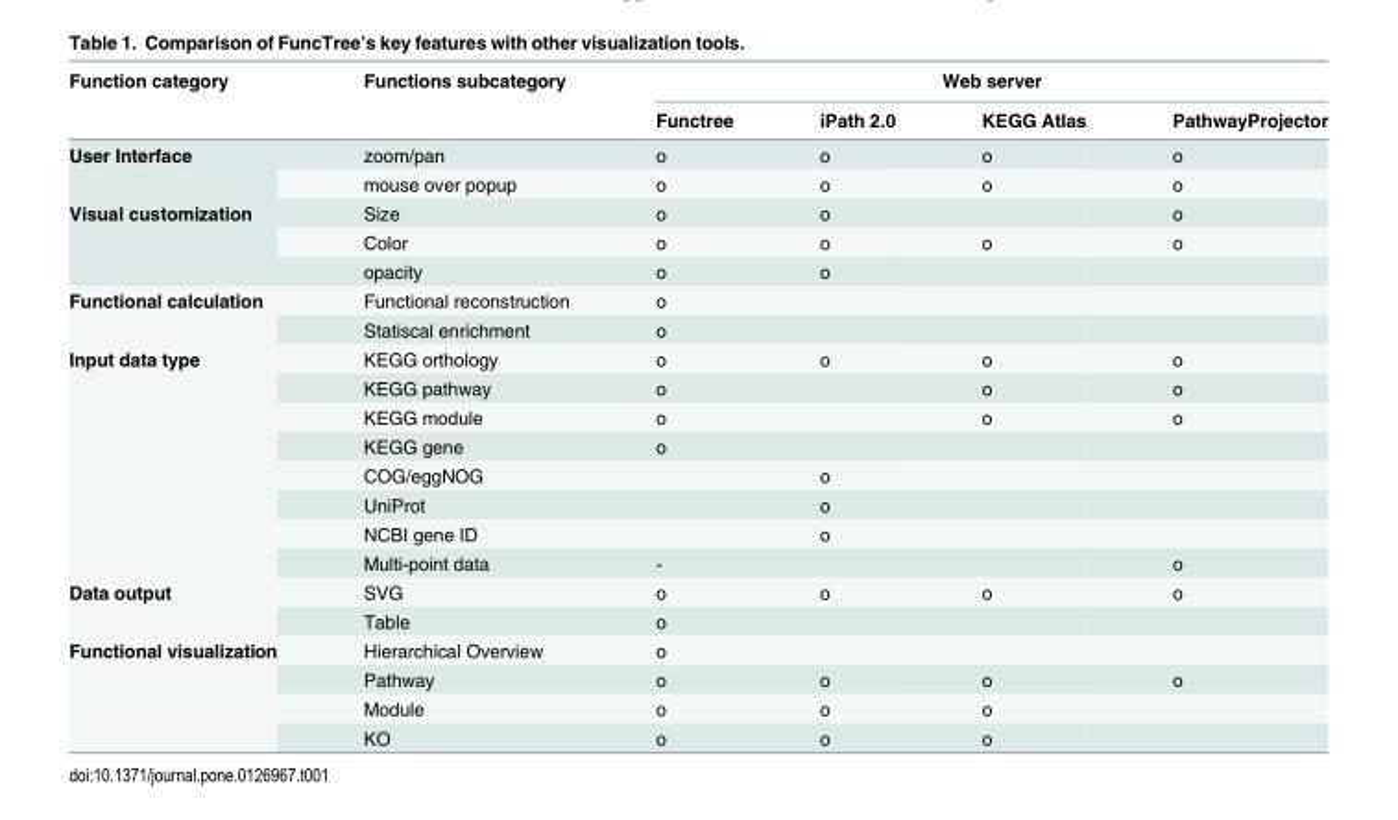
<table><thead><tr><td rowspan="2">Function category</td><td rowspan="2">Functions subcategory</td><td colspan="4">Web server</td></tr><tr><td>Functree</td><td>iPath 2.0</td><td>KEGG Atlas</td><td>PathwayProjector</td></tr></thead><tbody><tr><td rowspan="2">User Interface</td><td>zoom/pan</td><td>o</td><td>o</td><td>o</td><td>o</td></tr><tr><td>mouse over popup</td><td>o</td><td>o</td><td>o</td><td>o</td></tr><tr><td rowspan="3">Visual customization</td><td>Size</td><td>o</td><td>o</td><td></td><td>o</td></tr><tr><td>Color</td><td>o</td><td>o</td><td>o</td><td>o</td></tr><tr><td>opacity</td><td>o</td><td>o</td><td></td><td></td></tr><tr><td rowspan="2">Functional calculation</td><td>Functional reconstruction</td><td>o</td><td></td><td></td><td></td></tr><tr><td>Statiscal enrichment</td><td>o</td><td></td><td></td><td></td></tr><tr><td rowspan="8">Input data type</td><td>KEGG orthology</td><td>o</td><td>o</td><td>o</td><td>o</td></tr><tr><td>KEGG pathway</td><td>o</td><td></td><td>o</td><td>o</td></tr><tr><td>KEGG module</td><td>o</td><td></td><td>o</td><td>o</td></tr><tr><td>KEGG gene</td><td>o</td><td></td><td></td><td></td></tr><tr><td>COG/eggNOG</td><td></td><td>o</td><td></td><td></td></tr><tr><td>UniProt</td><td></td><td>o</td><td></td><td></td></tr><tr><td>NCBI gene ID</td><td></td><td>o</td><td></td><td></td></tr><tr><td>Multi-point data</td><td>-</td><td></td><td></td><td>o</td></tr><tr><td rowspan="2">Data output</td><td>SVG</td><td>o</td><td>o</td><td>o</td><td>o</td></tr><tr><td>Table</td><td>o</td><td></td><td></td><td></td></tr><tr><td rowspan="4">Functional visualization</td><td>Hierarchical Overview</td><td>o</td><td></td><td></td><td></td></tr><tr><td>Pathway</td><td>o</td><td>o</td><td>o</td><td>o</td></tr><tr><td>Module</td><td>o</td><td>o</td><td>o</td><td></td></tr><tr><td>KO</td><td>o</td><td>o</td><td>o</td><td></td></tr></tbody></table>